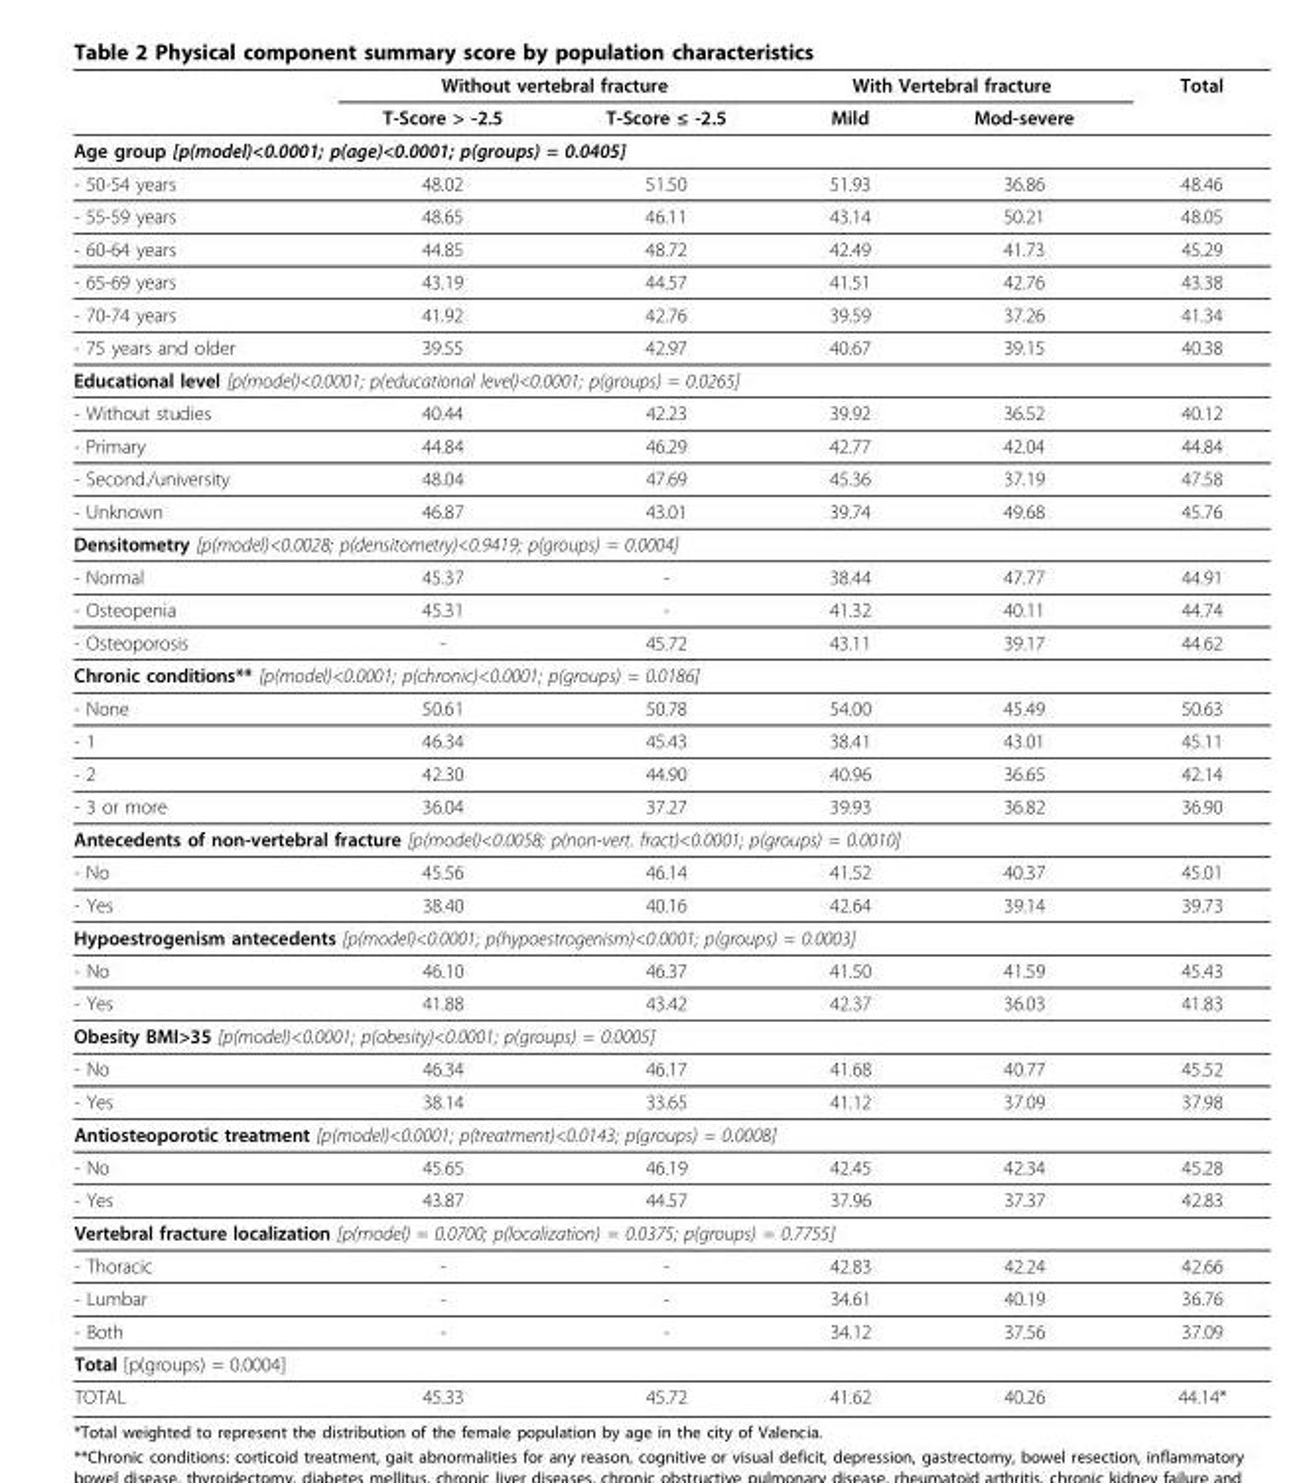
<table><thead><tr><td rowspan="2"></td><td colspan="2">Without vertebral fracture</td><td colspan="2">With Vertebral fracture</td><td rowspan="2">Total</td></tr><tr><td>T-Score &gt; -2.5</td><td>T-Score ≤ -2.5</td><td>Mild</td><td>Mod-severe</td></tr></thead><tbody><tr><td colspan="6">Age group [p(model)&lt;0.0001; p(age)&lt;0.0001; p(groups) = 0.0405]</td></tr><tr><td>- 50-54 years</td><td>48.02</td><td>51.50</td><td>51.93</td><td>36.86</td><td>48.46</td></tr><tr><td>- 55-59 years</td><td>48.65</td><td>46.11</td><td>43.14</td><td>50.21</td><td>48.05</td></tr><tr><td>- 60-64 years</td><td>44.85</td><td>48.72</td><td>42.49</td><td>41.73</td><td>45.29</td></tr><tr><td>- 65-69 years</td><td>43.19</td><td>44.57</td><td>41.51</td><td>42.76</td><td>43.38</td></tr><tr><td>- 70-74 years</td><td>41.92</td><td>42.76</td><td>39.59</td><td>37.26</td><td>41.34</td></tr><tr><td>- 75 years and older</td><td>39.55</td><td>42.97</td><td>40.67</td><td>39.15</td><td>40.38</td></tr><tr><td colspan="6">Educational level [p(model)&lt;0.0001; p(educational level)&lt;0.0001; p(groups) = 0.0265]</td></tr><tr><td>- Without studies</td><td>40.44</td><td>42.23</td><td>39.92</td><td>36.52</td><td>40.12</td></tr><tr><td>- Primary</td><td>44.84</td><td>46.29</td><td>42.77</td><td>42.04</td><td>44.84</td></tr><tr><td>- Second./university</td><td>48.04</td><td>47.69</td><td>45.36</td><td>37.19</td><td>47.58</td></tr><tr><td>- Unknown</td><td>46.87</td><td>43.01</td><td>39.74</td><td>49.68</td><td>45.76</td></tr><tr><td colspan="6">Densitometry [p(model)&lt;0.0028; p(densitometry)&lt;0.9419; p(groups) = 0.0004]</td></tr><tr><td>- Normal</td><td>45.37</td><td>-</td><td>38.44</td><td>47.77</td><td>44.91</td></tr><tr><td>- Osteopenia</td><td>45.31</td><td>-</td><td>41.32</td><td>40.11</td><td>44.74</td></tr><tr><td>- Osteoporosis</td><td>-</td><td>45.72</td><td>43.11</td><td>39.17</td><td>44.62</td></tr><tr><td colspan="6">Chronic conditions** [p(model)&lt;0.0001; p(chronic)&lt;0.0001; p(groups) = 0.0186]</td></tr><tr><td>- None</td><td>50.61</td><td>50.78</td><td>54.00</td><td>45.49</td><td>50.63</td></tr><tr><td>- 1</td><td>46.34</td><td>45.43</td><td>38.41</td><td>43.01</td><td>45.11</td></tr><tr><td>- 2</td><td>42.30</td><td>44.90</td><td>40.96</td><td>36.65</td><td>42.14</td></tr><tr><td>- 3 or more</td><td>36.04</td><td>37.27</td><td>39.93</td><td>36.82</td><td>36.90</td></tr><tr><td colspan="6">Antecedents of non-vertebral fracture [p(model)&lt;0.0058; p(non-vert. fract)&lt;0.0001; p(groups) = 0.0010]</td></tr><tr><td>- No</td><td>45.56</td><td>46.14</td><td>41.52</td><td>40.37</td><td>45.01</td></tr><tr><td>- Yes</td><td>38.40</td><td>40.16</td><td>42.64</td><td>39.14</td><td>39.73</td></tr><tr><td colspan="6">Hypoestrogenism antecedents [p(model)&lt;0.0001; p(hypoestrogenism)&lt;0.0001; p(groups) = 0.0003]</td></tr><tr><td>- No</td><td>46.10</td><td>46.37</td><td>41.50</td><td>41.59</td><td>45.43</td></tr><tr><td>- Yes</td><td>41.88</td><td>43.42</td><td>42.37</td><td>36.03</td><td>41.83</td></tr><tr><td colspan="6">Obesity BMI&gt;35 [p(model)&lt;0.0001; p(obesity)&lt;0.0001; p(groups) = 0.0005]</td></tr><tr><td>- No</td><td>46.34</td><td>46.17</td><td>41.68</td><td>40.77</td><td>45.52</td></tr><tr><td>- Yes</td><td>38.14</td><td>33.65</td><td>41.12</td><td>37.09</td><td>37.98</td></tr><tr><td colspan="6">Antiosteoporotic treatment [p(model)&lt;0.0001; p(treatment)&lt;0.0143; p(groups) = 0.0008]</td></tr><tr><td>- No</td><td>45.65</td><td>46.19</td><td>42.45</td><td>42.34</td><td>45.28</td></tr><tr><td>- Yes</td><td>43.87</td><td>44.57</td><td>37.96</td><td>37.37</td><td>42.83</td></tr><tr><td colspan="6">Vertebral fracture localization [p(model) = 0.0700; p(localization) = 0.0375; p(groups) = 0.7755]</td></tr><tr><td>- Thoracic</td><td>-</td><td>-</td><td>42.83</td><td>42.24</td><td>42.66</td></tr><tr><td>- Lumbar</td><td>-</td><td>-</td><td>34.61</td><td>40.19</td><td>36.76</td></tr><tr><td>- Both</td><td>-</td><td>-</td><td>34.12</td><td>37.56</td><td>37.09</td></tr><tr><td colspan="6">Total [p(groups) = 0.0004]</td></tr><tr><td>TOTAL</td><td>45.33</td><td>45.72</td><td>41.62</td><td>40.26</td><td>44.14*</td></tr></tbody></table>